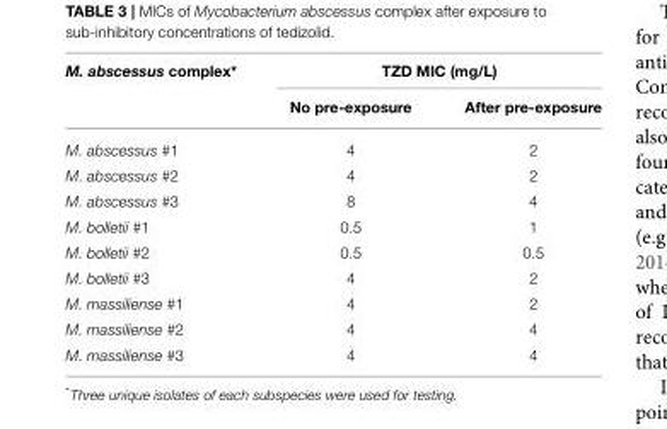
<table><thead><tr><td rowspan="2">M. abscessus complex*</td><td colspan="2">TZD MIC (mg/L)</td></tr><tr><td>No pre-exposure</td><td>After pre-exposure</td></tr></thead><tbody><tr><td>M. abscessus #1</td><td>4</td><td>2</td></tr><tr><td>M. abscessus #2</td><td>4</td><td>2</td></tr><tr><td>M. abscessus #3</td><td>8</td><td>4</td></tr><tr><td>M. bolletii #1</td><td>0.5</td><td>1</td></tr><tr><td>M. bolletii #2</td><td>0.5</td><td>0.5</td></tr><tr><td>M. bolletii #3</td><td>4</td><td>2</td></tr><tr><td>M. massiliense #1</td><td>4</td><td>2</td></tr><tr><td>M. massiliense #2</td><td>4</td><td>4</td></tr><tr><td>M. massiliense #3</td><td>4</td><td>4</td></tr></tbody></table>